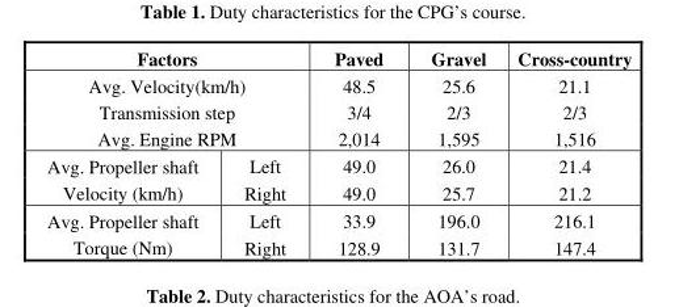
<table><thead><tr><td colspan="2">Factors</td><td>Paved</td><td>Gravel</td><td>Cross-country</td></tr></thead><tbody><tr><td colspan="2">Avg. Velocity(km/h)</td><td>48.5</td><td>25.6</td><td>21.1</td></tr><tr><td colspan="2">Transmission step</td><td>3/4</td><td>2/3</td><td>2/3</td></tr><tr><td colspan="2">Avg. Engine RPM</td><td>2,014</td><td>1,595</td><td>1,516</td></tr><tr><td>Avg. Propeller shaft</td><td>Left</td><td>49.0</td><td>26.0</td><td>21.4</td></tr><tr><td>Velocity (km/h)</td><td>Right</td><td>49.0</td><td>25.7</td><td>21.2</td></tr><tr><td>Avg. Propeller shaft</td><td>Left</td><td>33.9</td><td>196.0</td><td>216.1</td></tr><tr><td>Torque (Nm)</td><td>Right</td><td>128.9</td><td>131.7</td><td>147.4</td></tr></tbody></table>